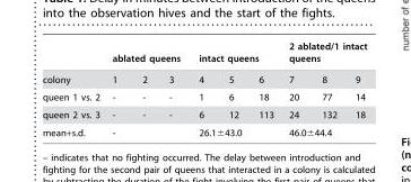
<table><thead><tr><td rowspan="2">colony</td><td colspan="3">ablated queens</td><td colspan="3">intact queens</td><td colspan="3">2 ablated/1 intact queens</td></tr><tr><td>1</td><td>2</td><td>3</td><td>4</td><td>5</td><td>6</td><td>7</td><td>8</td><td>9</td></tr></thead><tbody><tr><td>queen 1 vs. 2</td><td>-</td><td>-</td><td>-</td><td>1</td><td>6</td><td>18</td><td>20</td><td>77</td><td>14</td></tr><tr><td>queen 2 vs. 3</td><td>-</td><td>-</td><td>-</td><td>6</td><td>12</td><td>113</td><td>24</td><td>132</td><td>18</td></tr><tr><td>mean+s.d.</td><td colspan="3">-</td><td colspan="3">26.1±43.0</td><td colspan="3">46.0±44.4</td></tr></tbody></table>